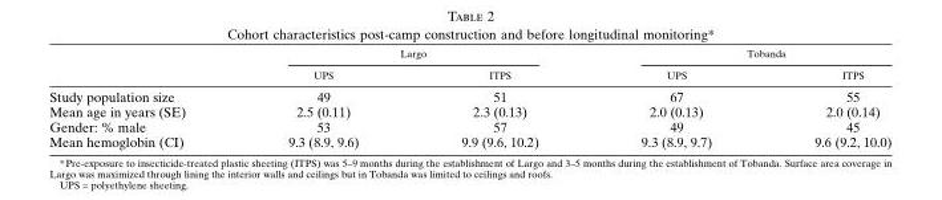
<table><thead><tr><td rowspan="2"></td><td colspan="2">Largo</td><td colspan="2">Tobanda</td></tr><tr><td>UPS</td><td>ITPS</td><td>UPS</td><td>ITPS</td></tr></thead><tbody><tr><td>Study population size</td><td>49</td><td>51</td><td>67</td><td>55</td></tr><tr><td>Mean age in years (SE)</td><td>2.5 (0.11)</td><td>2.3 (0.13)</td><td>2.0 (0.13)</td><td>2.0 (0.14)</td></tr><tr><td>Gender: % male</td><td>53</td><td>57</td><td>49</td><td>45</td></tr><tr><td>Mean hemoglobin (CI)</td><td>9.3 (8.9, 9.6)</td><td>9.9 (9.6, 10.2)</td><td>9.3 (8.9, 9.7)</td><td>9.6 (9.2, 10.0)</td></tr></tbody></table>